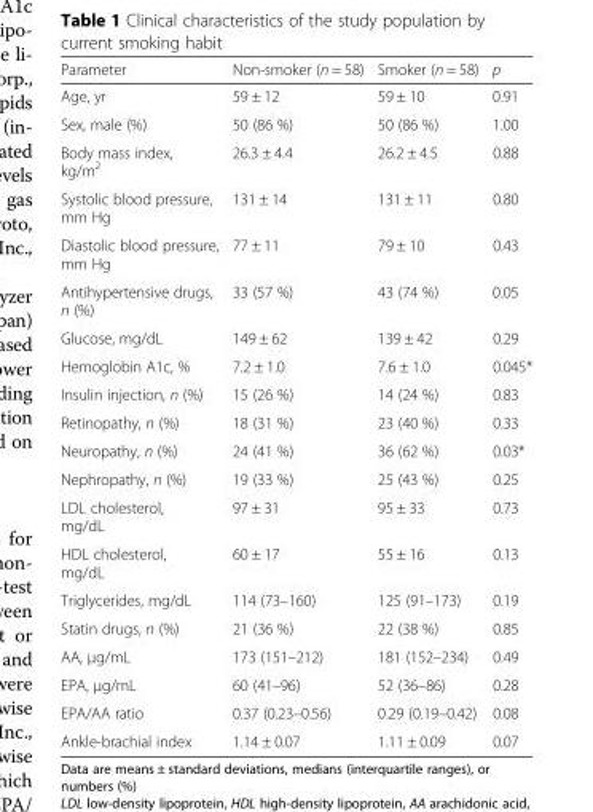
<table><thead><tr><td>Parameter</td><td>Non-smoker (n = 58)</td><td>Smoker (n = 58)</td><td>p</td></tr></thead><tbody><tr><td>Age, yr</td><td>59 ± 12</td><td>59 ± 10</td><td>0.91</td></tr><tr><td>Sex, male (%)</td><td>50 (86 %)</td><td>50 (86 %)</td><td>1.00</td></tr><tr><td>Body mass index, kg/m<sup>2</sup></td><td>26.3 ± 4.4</td><td>26.2 ± 4.5</td><td>0.88</td></tr><tr><td>Systolic blood pressure, mm Hg</td><td>131 ± 14</td><td>131 ± 11</td><td>0.80</td></tr><tr><td>Diastolic blood pressure, mm Hg</td><td>77 ± 11</td><td>79 ± 10</td><td>0.43</td></tr><tr><td>Antihypertensive drugs, n (%)</td><td>33 (57 %)</td><td>43 (74 %)</td><td>0.05</td></tr><tr><td>Glucose, mg/dL</td><td>149 ± 62</td><td>139 ± 42</td><td>0.29</td></tr><tr><td>Hemoglobin A1c, %</td><td>7.2 ± 1.0</td><td>7.6 ± 1.0</td><td>0.045*</td></tr><tr><td>Insulin injection, n (%)</td><td>15 (26 %)</td><td>14 (24 %)</td><td>0.83</td></tr><tr><td>Retinopathy, n (%)</td><td>18 (31 %)</td><td>23 (40 %)</td><td>0.33</td></tr><tr><td>Neuropathy, n (%)</td><td>24 (41 %)</td><td>36 (62 %)</td><td>0.03*</td></tr><tr><td>Nephropathy, n (%)</td><td>19 (33 %)</td><td>25 (43 %)</td><td>0.25</td></tr><tr><td>LDL cholesterol, mg/dL</td><td>97 ± 31</td><td>95 ± 33</td><td>0.73</td></tr><tr><td>HDL cholesterol, mg/dL</td><td>60 ± 17</td><td>55 ± 16</td><td>0.13</td></tr><tr><td>Triglycerides, mg/dL</td><td>114 (73–160)</td><td>125 (91–173)</td><td>0.19</td></tr><tr><td>Statin drugs, n (%)</td><td>21 (36 %)</td><td>22 (38 %)</td><td>0.85</td></tr><tr><td>AA, μg/mL</td><td>173 (151–212)</td><td>181 (152–234)</td><td>0.49</td></tr><tr><td>EPA, μg/mL</td><td>60 (41–96)</td><td>52 (36–86)</td><td>0.28</td></tr><tr><td>EPA/AA ratio</td><td>0.37 (0.23–0.56)</td><td>0.29 (0.19–0.42)</td><td>0.08</td></tr><tr><td>Ankle-brachial index</td><td>1.14 ± 0.07</td><td>1.11 ± 0.09</td><td>0.07</td></tr></tbody></table>